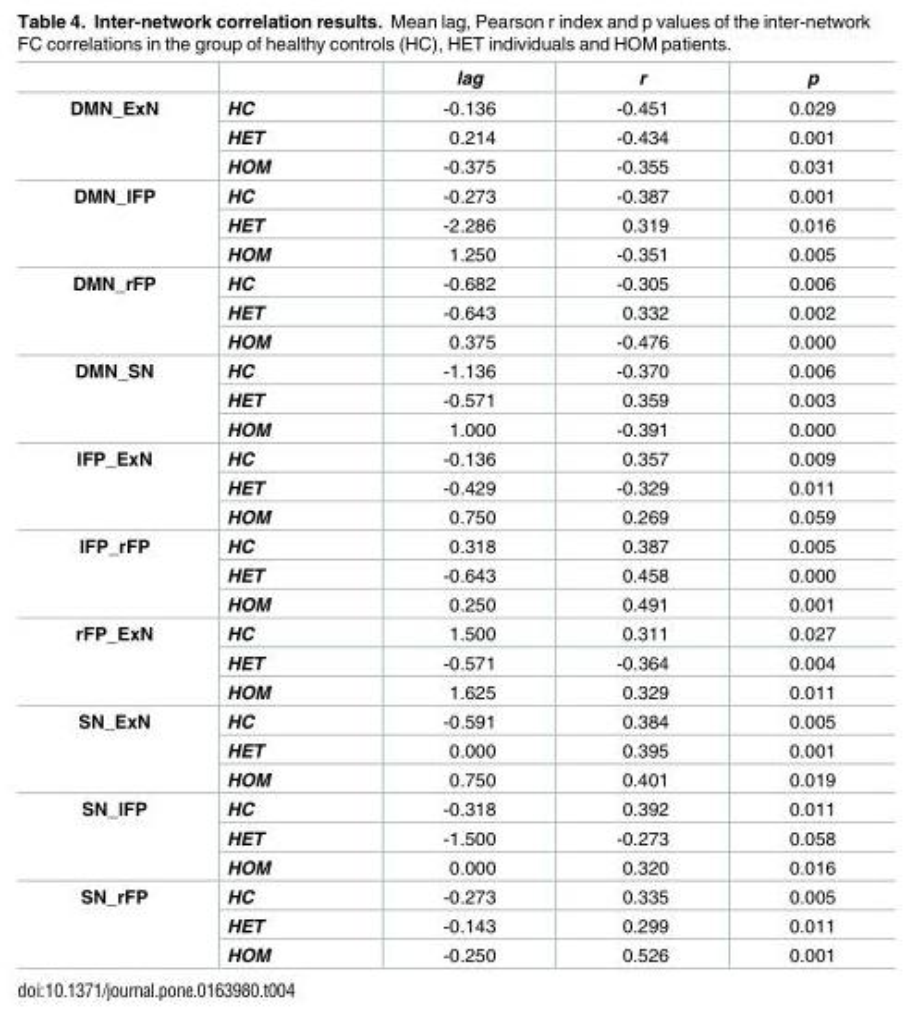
<table><thead><tr><td></td><td></td><td>lag</td><td>r</td><td>p</td></tr></thead><tbody><tr><td rowspan="3">DMN_ExN</td><td>HC</td><td>-0.136</td><td>-0.451</td><td>0.029</td></tr><tr><td>HET</td><td>0.214</td><td>-0.434</td><td>0.001</td></tr><tr><td>HOM</td><td>-0.375</td><td>-0.355</td><td>0.031</td></tr><tr><td rowspan="3">DMN_lFP</td><td>HC</td><td>-0.273</td><td>-0.387</td><td>0.001</td></tr><tr><td>HET</td><td>-2.286</td><td>0.319</td><td>0.016</td></tr><tr><td>HOM</td><td>1.250</td><td>-0.351</td><td>0.005</td></tr><tr><td rowspan="3">DMN_rFP</td><td>HC</td><td>-0.682</td><td>-0.305</td><td>0.006</td></tr><tr><td>HET</td><td>-0.643</td><td>0.332</td><td>0.002</td></tr><tr><td>HOM</td><td>0.375</td><td>-0.476</td><td>0.000</td></tr><tr><td rowspan="3">DMN_SN</td><td>HC</td><td>-1.136</td><td>-0.370</td><td>0.006</td></tr><tr><td>HET</td><td>-0.571</td><td>0.359</td><td>0.003</td></tr><tr><td>HOM</td><td>1.000</td><td>-0.391</td><td>0.000</td></tr><tr><td rowspan="3">lFP_ExN</td><td>HC</td><td>-0.136</td><td>0.357</td><td>0.009</td></tr><tr><td>HET</td><td>-0.429</td><td>-0.329</td><td>0.011</td></tr><tr><td>HOM</td><td>0.750</td><td>0.269</td><td>0.059</td></tr><tr><td rowspan="3">lFP_rFP</td><td>HC</td><td>0.318</td><td>0.387</td><td>0.005</td></tr><tr><td>HET</td><td>-0.643</td><td>0.458</td><td>0.000</td></tr><tr><td>HOM</td><td>0.250</td><td>0.491</td><td>0.001</td></tr><tr><td rowspan="3">rFP_ExN</td><td>HC</td><td>1.500</td><td>0.311</td><td>0.027</td></tr><tr><td>HET</td><td>-0.571</td><td>-0.364</td><td>0.004</td></tr><tr><td>HOM</td><td>1.625</td><td>0.329</td><td>0.011</td></tr><tr><td rowspan="3">SN_ExN</td><td>HC</td><td>-0.591</td><td>0.384</td><td>0.005</td></tr><tr><td>HET</td><td>0.000</td><td>0.395</td><td>0.001</td></tr><tr><td>HOM</td><td>0.750</td><td>0.401</td><td>0.019</td></tr><tr><td rowspan="3">SN_lFP</td><td>HC</td><td>-0.318</td><td>0.392</td><td>0.011</td></tr><tr><td>HET</td><td>-1.500</td><td>-0.273</td><td>0.058</td></tr><tr><td>HOM</td><td>0.000</td><td>0.320</td><td>0.016</td></tr><tr><td rowspan="3">SN_rFP</td><td>HC</td><td>-0.273</td><td>0.335</td><td>0.005</td></tr><tr><td>HET</td><td>-0.143</td><td>0.299</td><td>0.011</td></tr><tr><td>HOM</td><td>-0.250</td><td>0.526</td><td>0.001</td></tr></tbody></table>